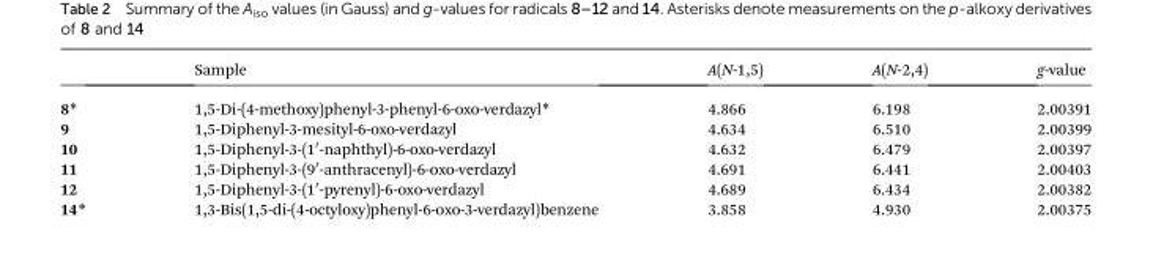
<table><thead><tr><td></td><td>Sample</td><td>A(N-1,5)</td><td>A(N-2,4)</td><td>g-value</td></tr></thead><tbody><tr><td>8*</td><td>1,5-Di-(4-methoxy)phenyl-3-phenyl-6-oxo-verdazyl*</td><td>4.866</td><td>6.198</td><td>2.00391</td></tr><tr><td>9</td><td>1,5-Diphenyl-3-mesityl-6-oxo-verdazyl</td><td>4.634</td><td>6.510</td><td>2.00399</td></tr><tr><td>10</td><td>1,5-Diphenyl-3-(1′-naphthyl)-6-oxo-verdazyl</td><td>4.632</td><td>6.479</td><td>2.00397</td></tr><tr><td>11</td><td>1,5-Diphenyl-3-(9′-anthracenyl)-6-oxo-verdazyl</td><td>4.691</td><td>6.441</td><td>2.00403</td></tr><tr><td>12</td><td>1,5-Diphenyl-3-(1′-pyrenyl)-6-oxo-verdazyl</td><td>4.689</td><td>6.434</td><td>2.00382</td></tr><tr><td>14*</td><td>1,3-Bis(1,5-di-(4-octyloxy)phenyl-6-oxo-3-verdazyl)benzene</td><td>3.858</td><td>4.930</td><td>2.00375</td></tr></tbody></table>